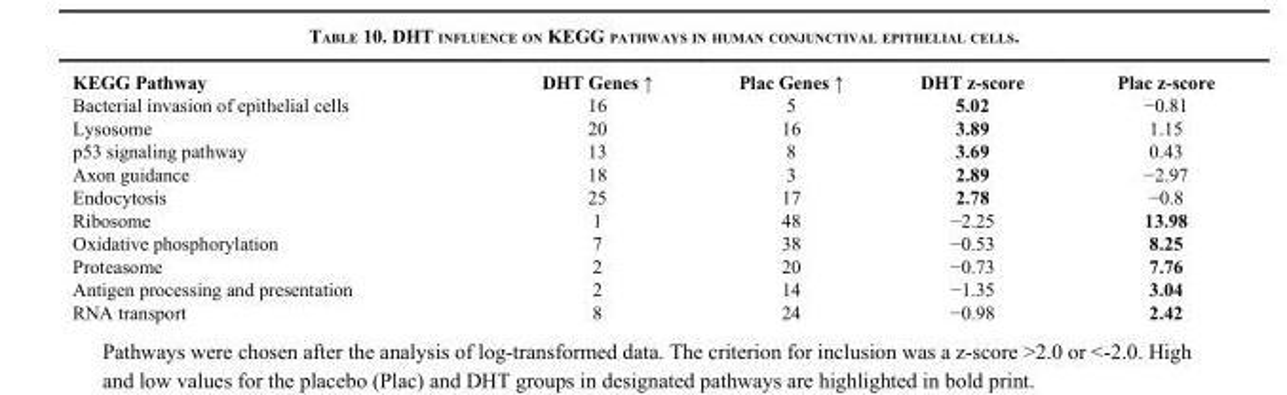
<table><thead><tr><td>KEGG Pathway</td><td>DHT Genes ↑</td><td>Plac Genes ↑</td><td>DHT z-score</td><td>Plac z-score</td></tr></thead><tbody><tr><td>Bacterial invasion of epithelial cells</td><td>16</td><td>5</td><td>5.02</td><td>−0.81</td></tr><tr><td>Lysosome</td><td>20</td><td>16</td><td>3.89</td><td>1.15</td></tr><tr><td>p53 signaling pathway</td><td>13</td><td>8</td><td>3.69</td><td>0.43</td></tr><tr><td>Axon guidance</td><td>18</td><td>3</td><td>2.89</td><td>−2.97</td></tr><tr><td>Endocytosis</td><td>25</td><td>17</td><td>2.78</td><td>−0.8</td></tr><tr><td>Ribosome</td><td>1</td><td>48</td><td>−2.25</td><td>13.98</td></tr><tr><td>Oxidative phosphorylation</td><td>7</td><td>38</td><td>−0.53</td><td>8.25</td></tr><tr><td>Proteasome</td><td>2</td><td>20</td><td>−0.73</td><td>7.76</td></tr><tr><td>Antigen processing and presentation</td><td>2</td><td>14</td><td>−1.35</td><td>3.04</td></tr><tr><td>RNA transport</td><td>8</td><td>24</td><td>−0.98</td><td>2.42</td></tr></tbody></table>